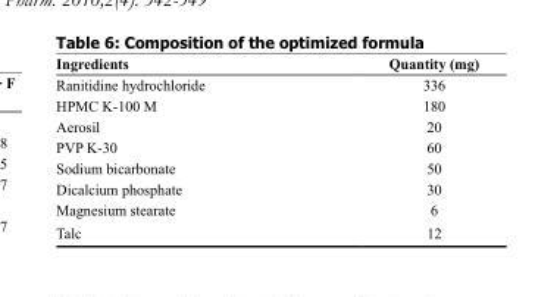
<table><thead><tr><td>Ingredients</td><td>Quantity (mg)</td></tr></thead><tbody><tr><td>Ranitidine hydrochloride</td><td>336</td></tr><tr><td>HPMC K-100 M</td><td>180</td></tr><tr><td>Aerosil</td><td>20</td></tr><tr><td>PVP K-30</td><td>60</td></tr><tr><td>Sodium bicarbonate</td><td>50</td></tr><tr><td>Dicalcium phosphate</td><td>30</td></tr><tr><td>Magnesium stearate</td><td>6</td></tr><tr><td>Talc</td><td>12</td></tr></tbody></table>